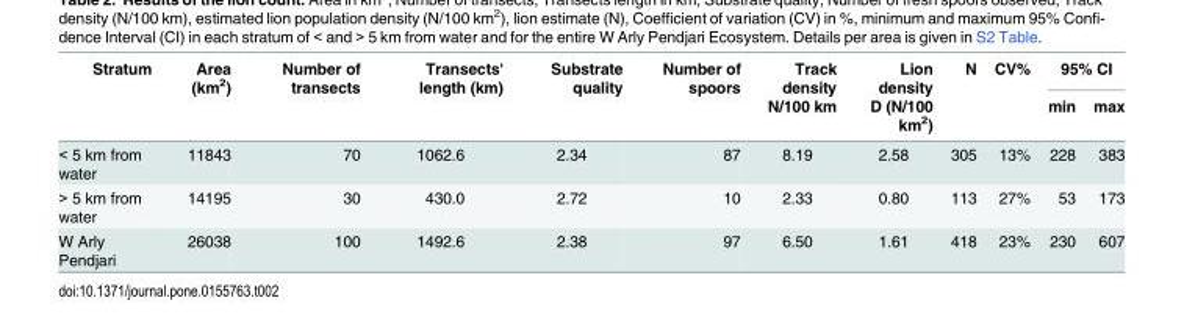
<table><thead><tr><td rowspan="2">Stratum</td><td rowspan="2">Area (km<sup>2</sup>)</td><td rowspan="2">Number of transects</td><td rowspan="2">Transects&#x27; length (km)</td><td rowspan="2">Substrate quality</td><td rowspan="2">Number of spoors</td><td rowspan="2">Track density N/100 km</td><td rowspan="2">Lion density D (N/100 km<sup>2</sup>)</td><td rowspan="2">N</td><td rowspan="2">CV%</td><td colspan="2">95% CI</td></tr><tr><td>min</td><td>max</td></tr></thead><tbody><tr><td>&lt; 5 km from water</td><td>11843</td><td>70</td><td>1062.6</td><td>2.34</td><td>87</td><td>8.19</td><td>2.58</td><td>305</td><td>13%</td><td>228</td><td>383</td></tr><tr><td>&gt; 5 km from water</td><td>14195</td><td>30</td><td>430.0</td><td>2.72</td><td>10</td><td>2.33</td><td>0.80</td><td>113</td><td>27%</td><td>53</td><td>173</td></tr><tr><td>W Arly Pendjari</td><td>26038</td><td>100</td><td>1492.6</td><td>2.38</td><td>97</td><td>6.50</td><td>1.61</td><td>418</td><td>23%</td><td>230</td><td>607</td></tr></tbody></table>